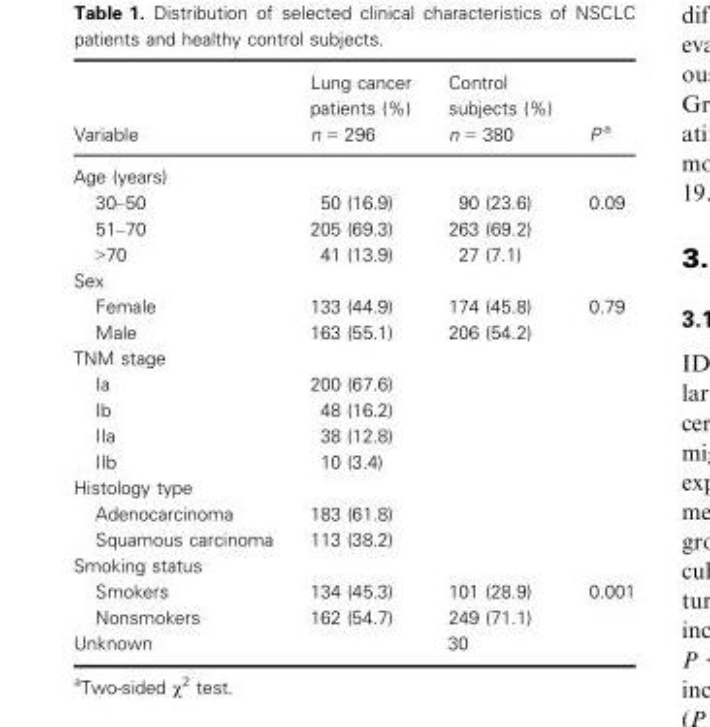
<table><thead><tr><td>Variable</td><td>Lung cancer patients (%) n = 296</td><td>Control subjects (%) n = 380</td><td>P a</td></tr></thead><tbody><tr><td colspan="4">Age (years)</td></tr><tr><td>30–50</td><td>50 (16.9)</td><td>90 (23.6)</td><td>0.09</td></tr><tr><td>51–70</td><td>205 (69.3)</td><td>263 (69.2)</td><td></td></tr><tr><td>&gt;70</td><td>41 (13.9)</td><td>27 (7.1)</td><td></td></tr><tr><td colspan="4">Sex</td></tr><tr><td>Female</td><td>133 (44.9)</td><td>174 (45.8)</td><td>0.79</td></tr><tr><td>Male</td><td>163 (55.1)</td><td>206 (54.2)</td><td></td></tr><tr><td colspan="4">TNM stage</td></tr><tr><td>Ia</td><td>200 (67.6)</td><td></td><td></td></tr><tr><td>Ib</td><td>48 (16.2)</td><td></td><td></td></tr><tr><td>IIa</td><td>38 (12.8)</td><td></td><td></td></tr><tr><td>IIb</td><td>10 (3.4)</td><td></td><td></td></tr><tr><td colspan="4">Histology type</td></tr><tr><td>Adenocarcinoma</td><td>183 (61.8)</td><td></td><td></td></tr><tr><td>Squamous carcinoma</td><td>113 (38.2)</td><td></td><td></td></tr><tr><td colspan="4">Smoking status</td></tr><tr><td>Smokers</td><td>134 (45.3)</td><td>101 (28.9)</td><td>0.001</td></tr><tr><td>Nonsmokers</td><td>162 (54.7)</td><td>249 (71.1)</td><td></td></tr><tr><td>Unknown</td><td></td><td>30</td><td></td></tr></tbody></table>